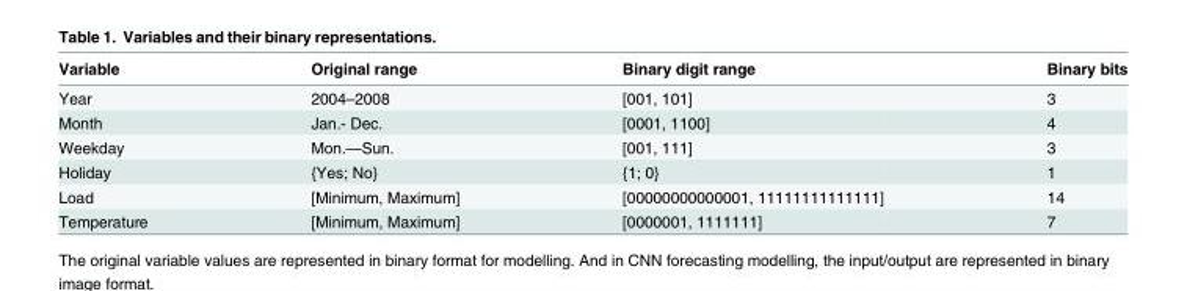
<table><thead><tr><td>Variable</td><td>Original range</td><td>Binary digit range</td><td>Binary bits</td></tr></thead><tbody><tr><td>Year</td><td>2004–2008</td><td>[001, 101]</td><td>3</td></tr><tr><td>Month</td><td>Jan.- Dec.</td><td>[0001, 1100]</td><td>4</td></tr><tr><td>Weekday</td><td>Mon.—Sun.</td><td>[001, 111]</td><td>3</td></tr><tr><td>Holiday</td><td>{Yes; No}</td><td>{1; 0}</td><td>1</td></tr><tr><td>Load</td><td>[Minimum, Maximum]</td><td>[00000000000001, 11111111111111]</td><td>14</td></tr><tr><td>Temperature</td><td>[Minimum, Maximum]</td><td>[0000001, 1111111]</td><td>7</td></tr></tbody></table>